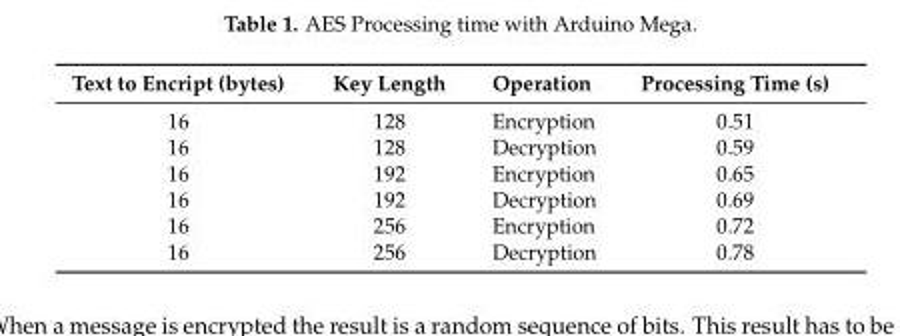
<table><thead><tr><td>Text to Encript (bytes)</td><td>Key Length</td><td>Operation</td><td>Processing Time (s)</td></tr></thead><tbody><tr><td>16</td><td>128</td><td>Encryption</td><td>0.51</td></tr><tr><td>16</td><td>128</td><td>Decryption</td><td>0.59</td></tr><tr><td>16</td><td>192</td><td>Encryption</td><td>0.65</td></tr><tr><td>16</td><td>192</td><td>Decryption</td><td>0.69</td></tr><tr><td>16</td><td>256</td><td>Encryption</td><td>0.72</td></tr><tr><td>16</td><td>256</td><td>Decryption</td><td>0.78</td></tr></tbody></table>